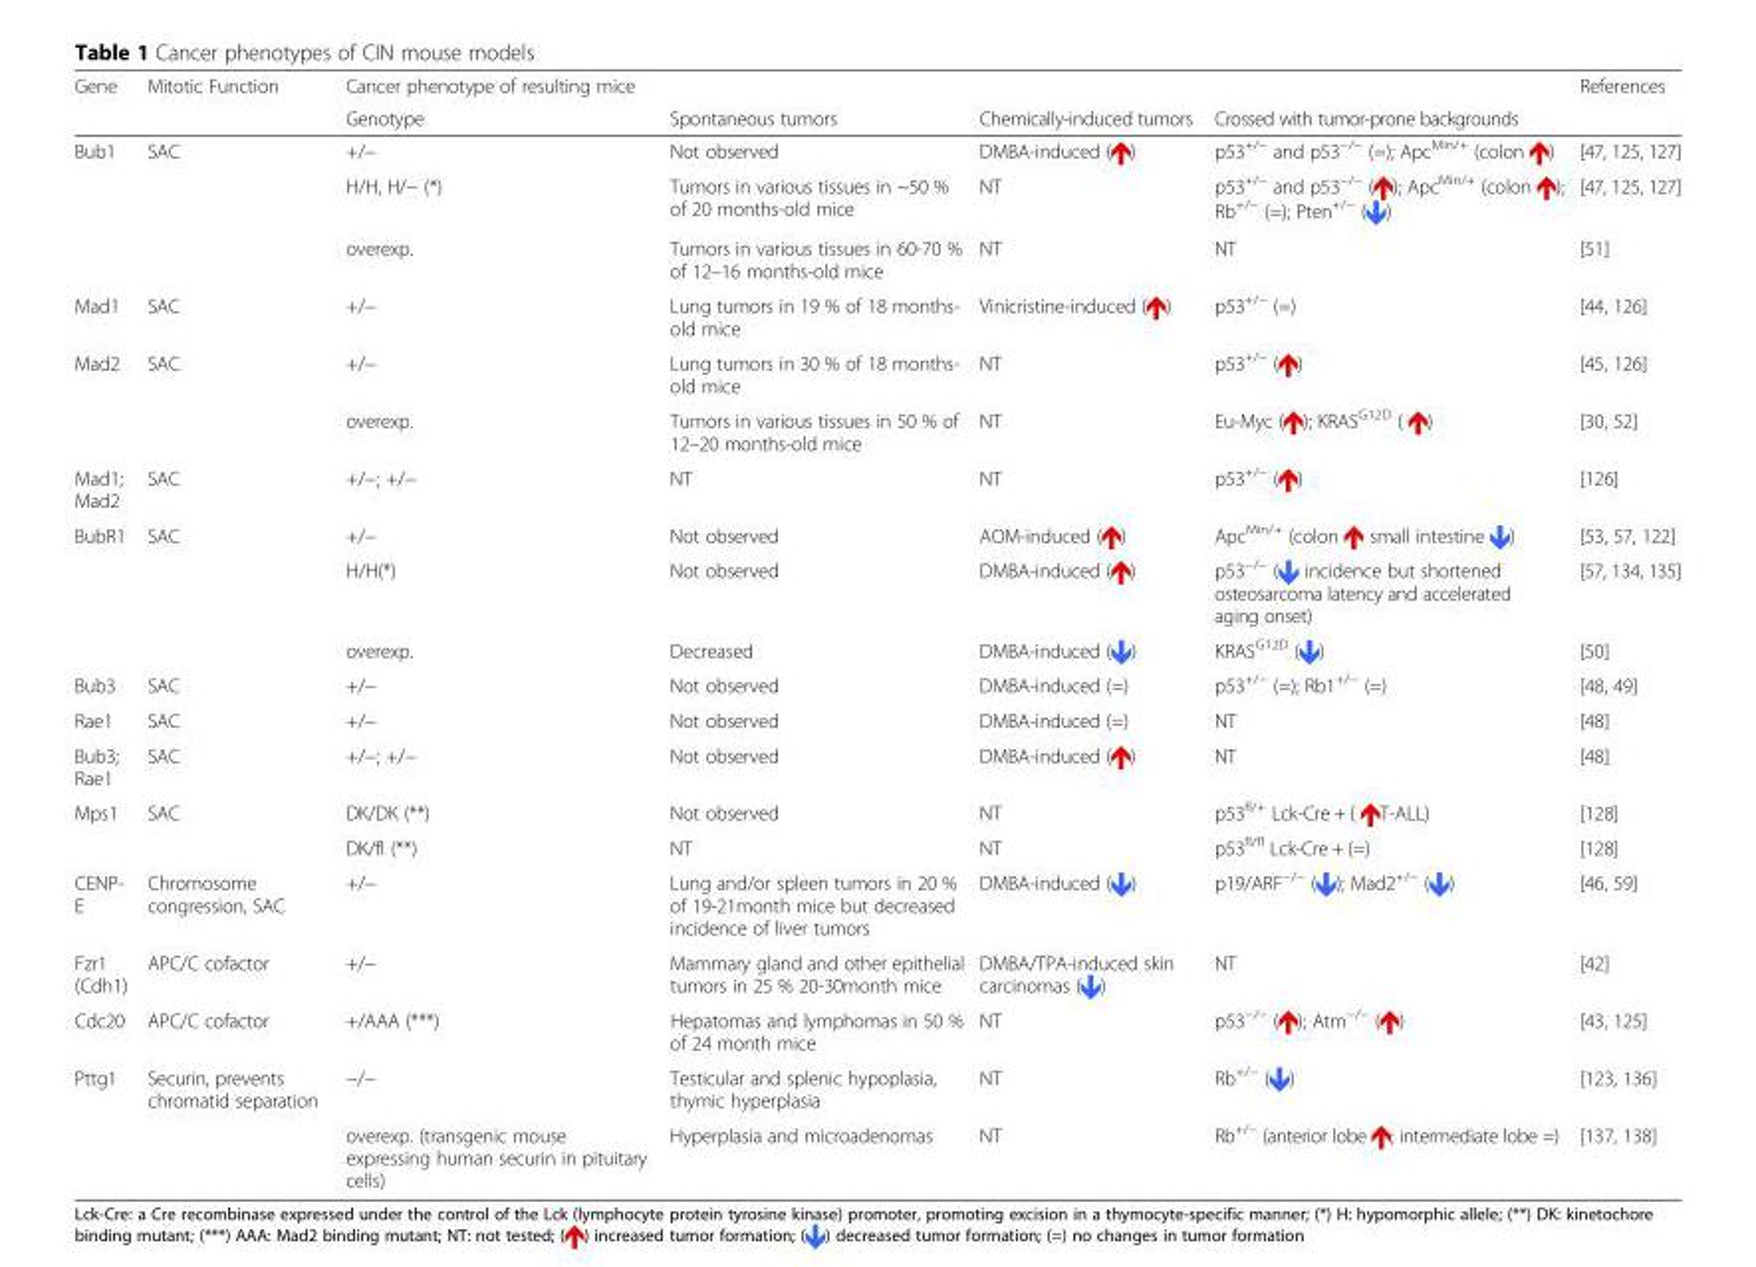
<table><thead><tr><td rowspan="2">Gene</td><td rowspan="2">Mitotic Function</td><td colspan="4">Cancer phenotype of resulting mice</td><td rowspan="2">References</td></tr><tr><td>Genotype</td><td>Spontaneous tumors</td><td>Chemically-induced tumors</td><td>Crossed with tumor-prone backgrounds</td></tr></thead><tbody><tr><td rowspan="3">Bub1</td><td rowspan="3">SAC</td><td>+/−</td><td>Not observed</td><td>DMBA-induced ( )</td><td>p53<sup>+/−</sup> and p53<sup>−/−</sup> (=); Apc<sup>Min/+</sup> (colon )</td><td>[47, 125, 127]</td></tr><tr><td>H/H, H/− (*)</td><td>Tumors in various tissues in ~50 % of 20 months-old mice</td><td>NT</td><td>p53<sup>+/−</sup> and p53<sup>−/−</sup> ( ); Apc<sup>Min/+</sup> (colon ); Rb<sup>+/−</sup> (=); Pten<sup>+/−</sup> ( )</td><td>[47, 125, 127]</td></tr><tr><td>overexp.</td><td>Tumors in various tissues in 60-70 % of 12–16 months-old mice</td><td>NT</td><td>NT</td><td>[51]</td></tr><tr><td>Mad1</td><td>SAC</td><td>+/−</td><td>Lung tumors in 19 % of 18 months- old mice</td><td>Vinicristine-induced ( )</td><td>p53<sup>+/−</sup> (=)</td><td>[44, 126]</td></tr><tr><td rowspan="2">Mad2</td><td rowspan="2">SAC</td><td>+/−</td><td>Lung tumors in 30 % of 18 months- old mice</td><td>NT</td><td>p53<sup>+/−</sup> ( )</td><td>[45, 126]</td></tr><tr><td>overexp.</td><td>Tumors in various tissues in 50 % of 12–20 months-old mice</td><td>NT</td><td>Eu-Myc ( ); KRAS<sup>G12D</sup> ( )</td><td>[30, 52]</td></tr><tr><td>Mad1; Mad2</td><td>SAC</td><td>+/−; +/−</td><td>NT</td><td>NT</td><td>p53<sup>+/−</sup> ( )</td><td>[126]</td></tr><tr><td rowspan="3">BubR1</td><td rowspan="3">SAC</td><td>+/−</td><td>Not observed</td><td>AOM-induced ( )</td><td>Apc<sup>Min/+</sup> (colon small intestine )</td><td>[53, 57, 122]</td></tr><tr><td>H/H(*)</td><td>Not observed</td><td>DMBA-induced ( )</td><td>p53<sup>−/−</sup> ( incidence but shortened osteosarcoma latency and accelerated aging onset)</td><td>[57, 134, 135]</td></tr><tr><td>overexp.</td><td>Decreased</td><td>DMBA-induced ( )</td><td>KRAS<sup>G12D</sup> ( )</td><td>[50]</td></tr><tr><td>Bub3</td><td>SAC</td><td>+/−</td><td>Not observed</td><td>DMBA-induced (=)</td><td>p53<sup>+/−</sup> (=); Rb1<sup>+/−</sup> (=)</td><td>[48, 49]</td></tr><tr><td>Rae1</td><td>SAC</td><td>+/−</td><td>Not observed</td><td>DMBA-induced (=)</td><td>NT</td><td>[48]</td></tr><tr><td>Bub3; Rae1</td><td>SAC</td><td>+/−; +/−</td><td>Not observed</td><td>DMBA-induced ( )</td><td>NT</td><td>[48]</td></tr><tr><td rowspan="2">Mps1</td><td rowspan="2">SAC</td><td>DK/DK (**)</td><td>Not observed</td><td>NT</td><td>p53<sup>fl/+</sup> Lck-Cre + ( T-ALL)</td><td>[128]</td></tr><tr><td>DK/fl (**)</td><td>NT</td><td>NT</td><td>p53<sup>fl/fl</sup> Lck-Cre + (=)</td><td>[128]</td></tr><tr><td>CENP- E</td><td>Chromosome congression, SAC</td><td>+/−</td><td>Lung and/or spleen tumors in 20 % of 19-21month mice but decreased incidence of liver tumors</td><td>DMBA-induced ( )</td><td>p19/ARF<sup>−/−</sup> ( ); Mad2<sup>+/−</sup> ( )</td><td>[46, 59]</td></tr><tr><td>Fzr1 (Cdh1)</td><td>APC/C cofactor</td><td>+/−</td><td>Mammary gland and other epithelial tumors in 25 % 20-30month mice</td><td>DMBA/TPA-induced skin carcinomas ( )</td><td>NT</td><td>[42]</td></tr><tr><td>Cdc20</td><td>APC/C cofactor</td><td>+/AAA (***)</td><td>Hepatomas and lymphomas in 50 % of 24 month mice</td><td>NT</td><td>p53<sup>−/−</sup> ( ); Atm<sup>−/−</sup> ( )</td><td>[43, 125]</td></tr><tr><td rowspan="2">Pttg1</td><td rowspan="2">Securin, prevents chromatid separation</td><td>−/−</td><td>Testicular and splenic hypoplasia, thymic hyperplasia</td><td>NT</td><td>Rb<sup>+/−</sup> ( )</td><td>[123, 136]</td></tr><tr><td>overexp. (transgenic mouse expressing human securin in pituitary cells)</td><td>Hyperplasia and microadenomas</td><td>NT</td><td>Rb<sup>+/−</sup> (anterior lobe ; intermediate lobe =)</td><td>[137, 138]</td></tr></tbody></table>